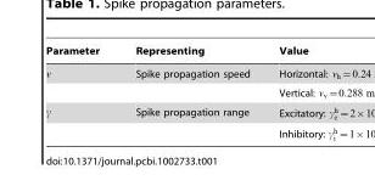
<table><thead><tr><td>Parameter</td><td>Representing</td><td>Value</td></tr></thead><tbody><tr><td>v</td><td>Spike propagation speed</td><td>Horizontal:</td></tr><tr><td></td><td></td><td>Vertical:</td></tr><tr><td>c</td><td>Spike propagation range</td><td>Excitatory:</td></tr><tr><td></td><td></td><td>Inhibitory:</td></tr></tbody></table>